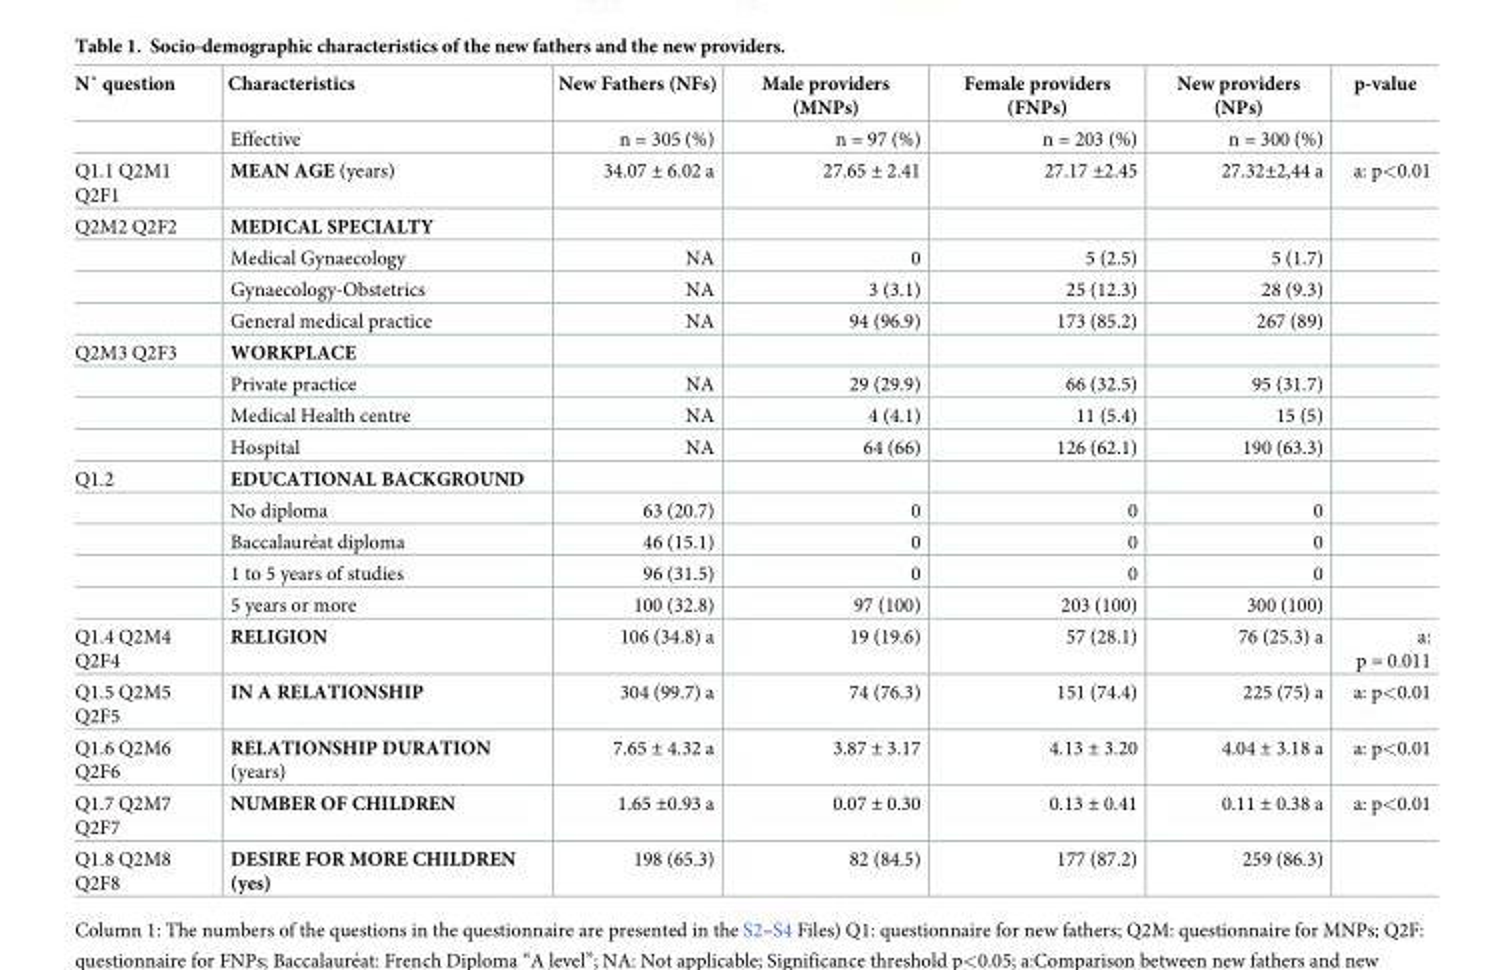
<table><thead><tr><td>N˚ question</td><td>Characteristics</td><td>New Fathers (NFs)</td><td>Male providers (MNPs)</td><td>Female providers (FNPs)</td><td>New providers (NPs)</td><td>p-value</td></tr></thead><tbody><tr><td></td><td>Effective</td><td>n = 305 (%)</td><td>n = 97 (%)</td><td>n = 203 (%)</td><td>n = 300 (%)</td><td></td></tr><tr><td>Q1.1 Q2M1 Q2F1</td><td>MEAN AGE (years)</td><td>34.07 ± 6.02 a</td><td>27.65 ± 2.41</td><td>27.17 ±2.45</td><td>27.32±2,44 a</td><td>a: p&lt;0.01</td></tr><tr><td rowspan="4">Q2M2 Q2F2</td><td>MEDICAL SPECIALTY</td><td></td><td></td><td></td><td></td><td></td></tr><tr><td>Medical Gynaecology</td><td>NA</td><td>0</td><td>5 (2.5)</td><td>5 (1.7)</td><td></td></tr><tr><td>Gynaecology-Obstetrics</td><td>NA</td><td>3 (3.1)</td><td>25 (12.3)</td><td>28 (9.3)</td><td></td></tr><tr><td>General medical practice</td><td>NA</td><td>94 (96.9)</td><td>173 (85.2)</td><td>267 (89)</td><td></td></tr><tr><td rowspan="4">Q2M3 Q2F3</td><td>WORKPLACE</td><td></td><td></td><td></td><td></td><td></td></tr><tr><td>Private practice</td><td>NA</td><td>29 (29.9)</td><td>66 (32.5)</td><td>95 (31.7)</td><td></td></tr><tr><td>Medical Health centre</td><td>NA</td><td>4 (4.1)</td><td>11 (5.4)</td><td>15 (5)</td><td></td></tr><tr><td>Hospital</td><td>NA</td><td>64 (66)</td><td>126 (62.1)</td><td>190 (63.3)</td><td></td></tr><tr><td rowspan="5">Q1.2</td><td>EDUCATIONAL BACKGROUND</td><td></td><td></td><td></td><td></td><td></td></tr><tr><td>No diploma</td><td>63 (20.7)</td><td>0</td><td>0</td><td>0</td><td></td></tr><tr><td>Baccalaure´at diploma</td><td>46 (15.1)</td><td>0</td><td>0</td><td>0</td><td></td></tr><tr><td>1 to 5 years of studies</td><td>96 (31.5)</td><td>0</td><td>0</td><td>0</td><td></td></tr><tr><td>5 years or more</td><td>100 (32.8)</td><td>97 (100)</td><td>203 (100)</td><td>300 (100)</td><td></td></tr><tr><td>Q1.4 Q2M4 Q2F4</td><td>RELIGION</td><td>106 (34.8) a</td><td>19 (19.6)</td><td>57 (28.1)</td><td>76 (25.3) a</td><td>a: p = 0.011</td></tr><tr><td>Q1.5 Q2M5 Q2F5</td><td>IN A RELATIONSHIP</td><td>304 (99.7) a</td><td>74 (76.3)</td><td>151 (74.4)</td><td>225 (75) a</td><td>a: p&lt;0.01</td></tr><tr><td>Q1.6 Q2M6 Q2F6</td><td>RELATIONSHIP DURATION (years)</td><td>7.65 ± 4.32 a</td><td>3.87 ± 3.17</td><td>4.13 ± 3.20</td><td>4.04 ± 3.18 a</td><td>a: p&lt;0.01</td></tr><tr><td>Q1.7 Q2M7 Q2F7</td><td>NUMBER OF CHILDREN</td><td>1.65 ±0.93 a</td><td>0.07 ± 0.30</td><td>0.13 ± 0.41</td><td>0.11 ± 0.38 a</td><td>a: p&lt;0.01</td></tr><tr><td>Q1.8 Q2M8 Q2F8</td><td>DESIRE FOR MORE CHILDREN (yes)</td><td>198 (65.3)</td><td>82 (84.5)</td><td>177 (87.2)</td><td>259 (86.3)</td><td></td></tr></tbody></table>